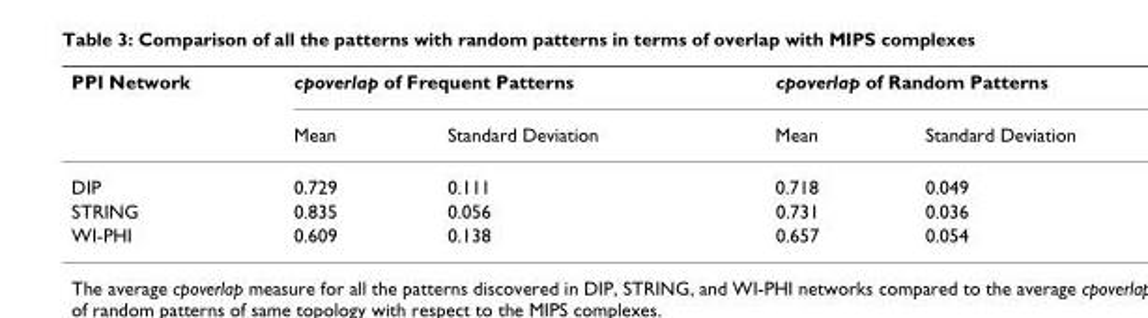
<table><thead><tr><td rowspan="2">PPI Network</td><td colspan="2">cpoverlap of Frequent Patterns</td><td colspan="2">cpoverlap of Random Patterns</td></tr><tr><td>Mean</td><td>Standard Deviation</td><td>Mean</td><td>Standard Deviation</td></tr></thead><tbody><tr><td>DIP</td><td>0.729</td><td>0.111</td><td>0.718</td><td>0.049</td></tr><tr><td>STRING</td><td>0.835</td><td>0.056</td><td>0.731</td><td>0.036</td></tr><tr><td>WI-PHI</td><td>0.609</td><td>0.138</td><td>0.657</td><td>0.054</td></tr></tbody></table>